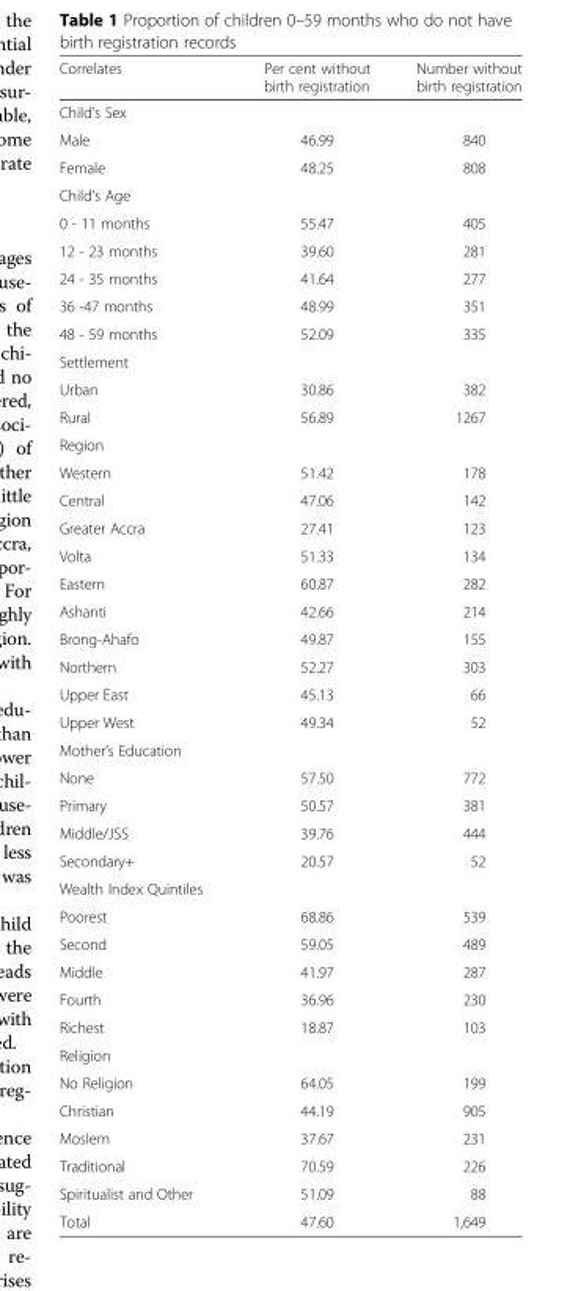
<table><thead><tr><td>Correlates</td><td>Per cent without birth registration</td><td>Number without birth registration</td></tr></thead><tbody><tr><td colspan="3">Child’s Sex</td></tr><tr><td>Male</td><td>46.99</td><td>840</td></tr><tr><td>Female</td><td>48.25</td><td>808</td></tr><tr><td colspan="3">Child’s Age</td></tr><tr><td>0 - 11 months</td><td>55.47</td><td>405</td></tr><tr><td>12 - 23 months</td><td>39.60</td><td>281</td></tr><tr><td>24 - 35 months</td><td>41.64</td><td>277</td></tr><tr><td>36 -47 months</td><td>48.99</td><td>351</td></tr><tr><td>48 - 59 months</td><td>52.09</td><td>335</td></tr><tr><td colspan="3">Settlement</td></tr><tr><td>Urban</td><td>30.86</td><td>382</td></tr><tr><td>Rural</td><td>56.89</td><td>1267</td></tr><tr><td colspan="3">Region</td></tr><tr><td>Western</td><td>51.42</td><td>178</td></tr><tr><td>Central</td><td>47.06</td><td>142</td></tr><tr><td>Greater Accra</td><td>27.41</td><td>123</td></tr><tr><td>Volta</td><td>51.33</td><td>134</td></tr><tr><td>Eastern</td><td>60.87</td><td>282</td></tr><tr><td>Ashanti</td><td>42.66</td><td>214</td></tr><tr><td>Brong-Ahafo</td><td>49.87</td><td>155</td></tr><tr><td>Northern</td><td>52.27</td><td>303</td></tr><tr><td>Upper East</td><td>45.13</td><td>66</td></tr><tr><td>Upper West</td><td>49.34</td><td>52</td></tr><tr><td colspan="3">Mother’s Education</td></tr><tr><td>None</td><td>57.50</td><td>772</td></tr><tr><td>Primary</td><td>50.57</td><td>381</td></tr><tr><td>Middle/JSS</td><td>39.76</td><td>444</td></tr><tr><td>Secondary+</td><td>20.57</td><td>52</td></tr><tr><td colspan="3">Wealth Index Quintiles</td></tr><tr><td>Poorest</td><td>68.86</td><td>539</td></tr><tr><td>Second</td><td>59.05</td><td>489</td></tr><tr><td>Middle</td><td>41.97</td><td>287</td></tr><tr><td>Fourth</td><td>36.96</td><td>230</td></tr><tr><td>Richest</td><td>18.87</td><td>103</td></tr><tr><td colspan="3">Religion</td></tr><tr><td>No Religion</td><td>64.05</td><td>199</td></tr><tr><td>Christian</td><td>44.19</td><td>905</td></tr><tr><td>Moslem</td><td>37.67</td><td>231</td></tr><tr><td>Traditional</td><td>70.59</td><td>226</td></tr><tr><td>Spiritualist and Other</td><td>51.09</td><td>88</td></tr><tr><td>Total</td><td>47.60</td><td>1,649</td></tr></tbody></table>